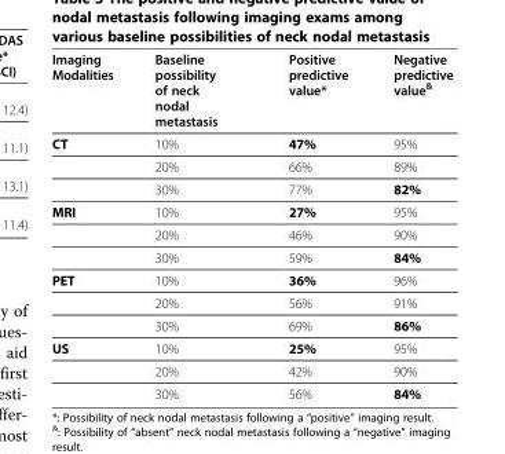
<table><thead><tr><td>Imaging Modalities</td><td>Baseline possibility of neck nodal metastasis</td><td>Positive predictive value*</td><td>Negative predictive value<sup>&amp;</sup></td></tr></thead><tbody><tr><td rowspan="3">CT</td><td>10%</td><td>47%</td><td>95%</td></tr><tr><td>20%</td><td>66%</td><td>89%</td></tr><tr><td>30%</td><td>77%</td><td>82%</td></tr><tr><td rowspan="3">MRI</td><td>10%</td><td>27%</td><td>95%</td></tr><tr><td>20%</td><td>46%</td><td>90%</td></tr><tr><td>30%</td><td>59%</td><td>84%</td></tr><tr><td rowspan="3">PET</td><td>10%</td><td>36%</td><td>96%</td></tr><tr><td>20%</td><td>56%</td><td>91%</td></tr><tr><td>30%</td><td>69%</td><td>86%</td></tr><tr><td rowspan="3">US</td><td>10%</td><td>25%</td><td>95%</td></tr><tr><td>20%</td><td>42%</td><td>90%</td></tr><tr><td>30%</td><td>56%</td><td>84%</td></tr></tbody></table>